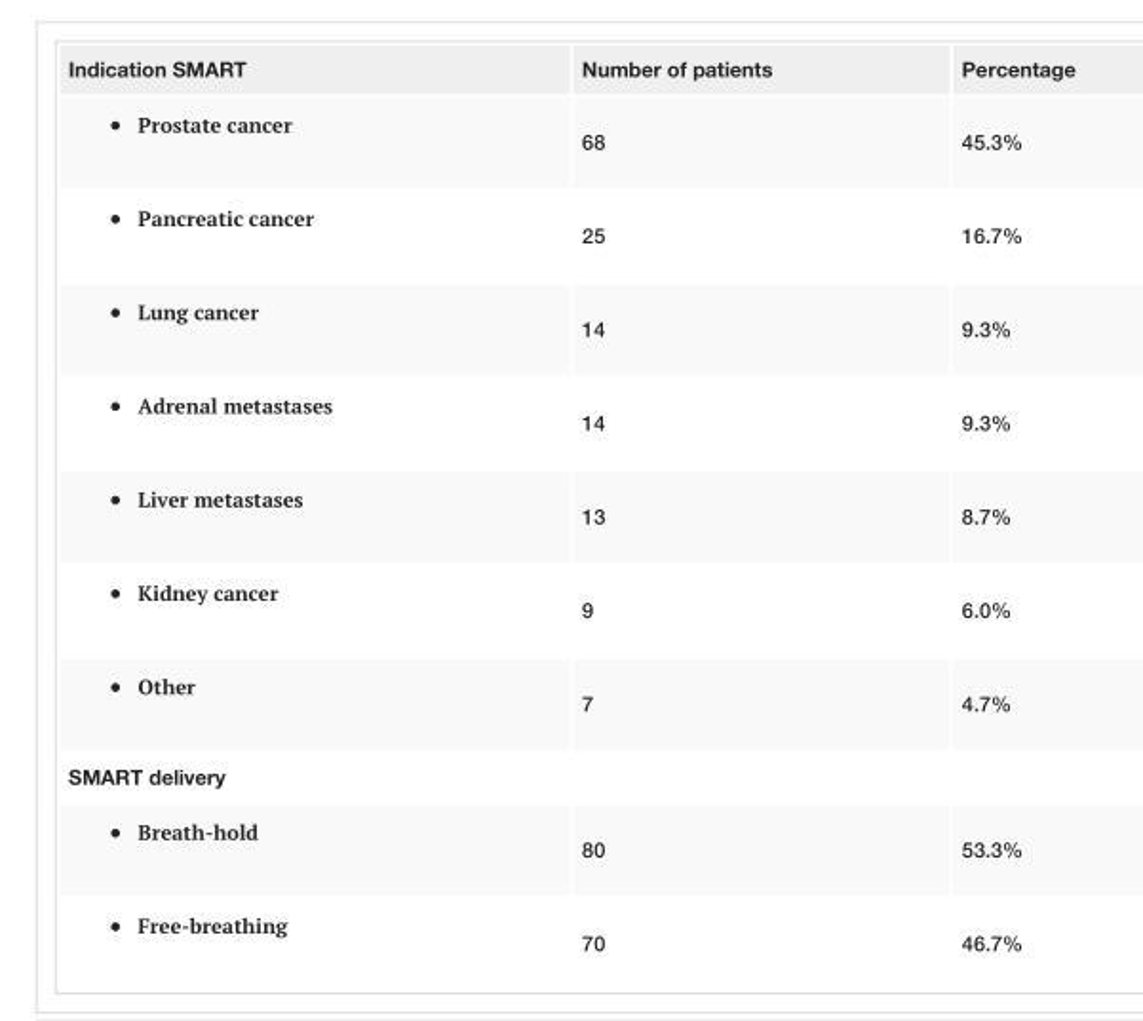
<table><tbody><tr><td>Indication SMART</td><td>Number of patients</td><td>Percentage</td></tr><tr><td>Prostate cancer</td><td>68</td><td>45.3%</td></tr><tr><td>Pancreatic cancer</td><td>25</td><td>16.7%</td></tr><tr><td>Lung cancer</td><td>14</td><td>9.3%</td></tr><tr><td>Adrenal metastases</td><td>14</td><td>9.3%</td></tr><tr><td>Liver metastases</td><td>13</td><td>8.7%</td></tr><tr><td>Kidney cancer</td><td>9</td><td>6.0%</td></tr><tr><td>Other</td><td>7</td><td>4.7%</td></tr><tr><td colspan="3">SMART delivery</td></tr><tr><td>Breath-hold</td><td>80</td><td>53.3%</td></tr><tr><td>Free-breathing</td><td>70</td><td>46.7%</td></tr></tbody></table>